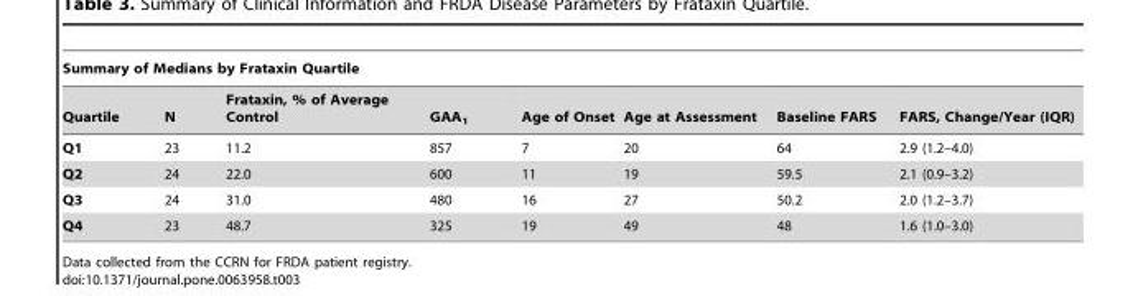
<table><thead><tr><td colspan="8">Summary of Medians by Frataxin Quartile</td></tr><tr><td>Quartile</td><td>N</td><td>Frataxin, % of Average Control</td><td>GAA<sub>1</sub></td><td>Age of Onset</td><td>Age at Assessment</td><td>Baseline FARS</td><td>FARS, Change/Year (IQR)</td></tr></thead><tbody><tr><td>Q1</td><td>23</td><td>11.2</td><td>857</td><td>7</td><td>20</td><td>64</td><td>2.9 (1.2–4.0)</td></tr><tr><td>Q2</td><td>24</td><td>22.0</td><td>600</td><td>11</td><td>19</td><td>59.5</td><td>2.1 (0.9–3.2)</td></tr><tr><td>Q3</td><td>24</td><td>31.0</td><td>480</td><td>16</td><td>27</td><td>50.2</td><td>2.0 (1.2–3.7)</td></tr><tr><td>Q4</td><td>23</td><td>48.7</td><td>325</td><td>19</td><td>49</td><td>48</td><td>1.6 (1.0–3.0)</td></tr></tbody></table>